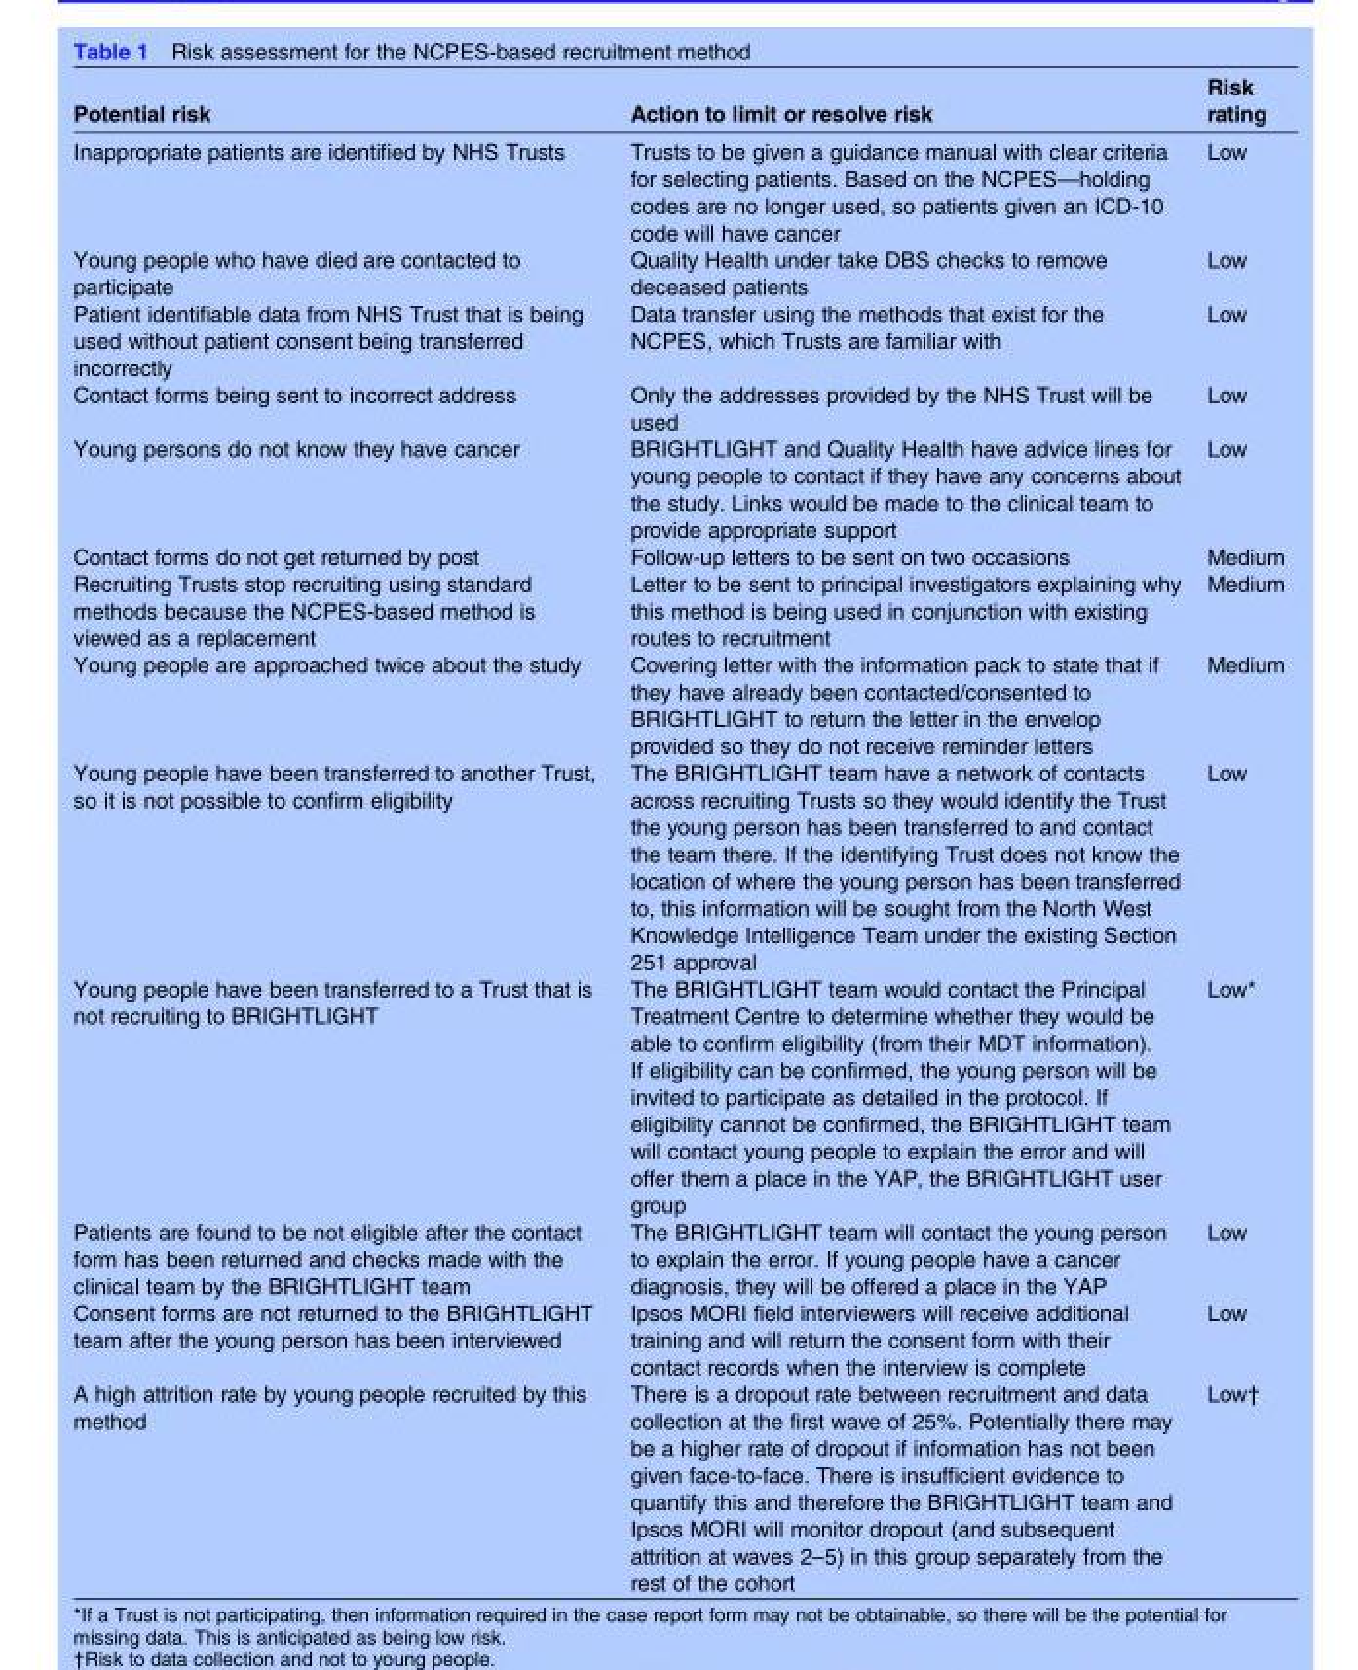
<table><thead><tr><td>Potential risk</td><td>Action to limit or resolve risk</td><td>Risk rating</td></tr></thead><tbody><tr><td>Inappropriate patients are identified by NHS Trusts</td><td>Trusts to be given a guidance manual with clear criteria for selecting patients. Based on the NCPES—holding codes are no longer used, so patients given an ICD-10 code will have cancer</td><td>Low</td></tr><tr><td>Young people who have died are contacted to participate</td><td>Quality Health under take DBS checks to remove deceased patients</td><td>Low</td></tr><tr><td>Patient identifiable data from NHS Trust that is being used without patient consent being transferred incorrectly</td><td>Data transfer using the methods that exist for the NCPES, which Trusts are familiar with</td><td>Low</td></tr><tr><td>Contact forms being sent to incorrect address</td><td>Only the addresses provided by the NHS Trust will be used</td><td>Low</td></tr><tr><td>Young persons do not know they have cancer</td><td>BRIGHTLIGHT and Quality Health have advice lines for young people to contact if they have any concerns about the study. Links would be made to the clinical team to provide appropriate support</td><td>Low</td></tr><tr><td>Contact forms do not get returned by post</td><td>Follow-up letters to be sent on two occasions</td><td>Medium</td></tr><tr><td>Recruiting Trusts stop recruiting using standard methods because the NCPES-based method is viewed as a replacement</td><td>Letter to be sent to principal investigators explaining why this method is being used in conjunction with existing routes to recruitment</td><td>Medium</td></tr><tr><td>Young people are approached twice about the study</td><td>Covering letter with the information pack to state that if they have already been contacted/consented to BRIGHTLIGHT to return the letter in the envelop provided so they do not receive reminder letters</td><td>Medium</td></tr><tr><td>Young people have been transferred to another Trust, so it is not possible to confirm eligibility</td><td>The BRIGHTLIGHT team have a network of contacts across recruiting Trusts so they would identify the Trust the young person has been transferred to and contact the team there. If the identifying Trust does not know the location of where the young person has been transferred to, this information will be sought from the North West Knowledge Intelligence Team under the existing Section 251 approval</td><td>Low</td></tr><tr><td>Young people have been transferred to a Trust that is not recruiting to BRIGHTLIGHT</td><td>The BRIGHTLIGHT team would contact the Principal Treatment Centre to determine whether they would be able to confirm eligibility (from their MDT information). If eligibility can be confirmed, the young person will be invited to participate as detailed in the protocol. If eligibility cannot be confirmed, the BRIGHTLIGHT team will contact young people to explain the error and will offer them a place in the YAP, the BRIGHTLIGHT user group</td><td>Low*</td></tr><tr><td>Patients are found to be not eligible after the contact form has been returned and checks made with the clinical team by the BRIGHTLIGHT team</td><td>The BRIGHTLIGHT team will contact the young person to explain the error. If young people have a cancer diagnosis, they will be offered a place in the YAP</td><td>Low</td></tr><tr><td>Consent forms are not returned to the BRIGHTLIGHT team after the young person has been interviewed</td><td>Ipsos MORI field interviewers will receive additional training and will return the consent form with their contact records when the interview is complete</td><td>Low</td></tr><tr><td>A high attrition rate by young people recruited by this method</td><td>There is a dropout rate between recruitment and data collection at the first wave of 25%. Potentially there may be a higher rate of dropout if information has not been given face-to-face. There is insufficient evidence to quantify this and therefore the BRIGHTLIGHT team and Ipsos MORI will monitor dropout (and subsequent attrition at waves 2–5) in this group separately from the rest of the cohort</td><td>Low†</td></tr></tbody></table>